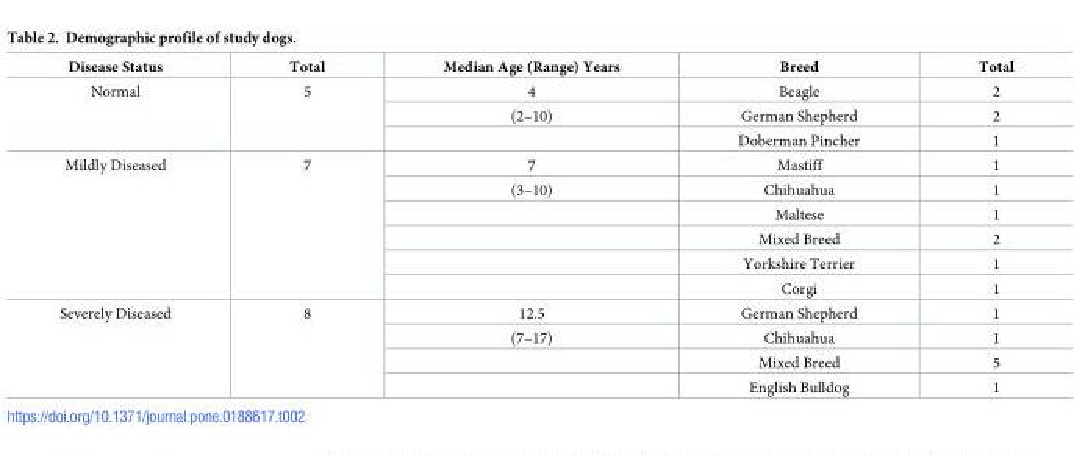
<table><thead><tr><td>Disease Status</td><td>Total</td><td>Median Age (Range) Years</td><td>Breed</td><td>Total</td></tr></thead><tbody><tr><td rowspan="3">Normal</td><td rowspan="3">5</td><td>4</td><td>Beagle</td><td>2</td></tr><tr><td>(2–10)</td><td>German Shepherd</td><td>2</td></tr><tr><td></td><td>Doberman Pincher</td><td>1</td></tr><tr><td rowspan="6">Mildly Diseased</td><td rowspan="6">7</td><td>7</td><td>Mastiff</td><td>1</td></tr><tr><td>(3–10)</td><td>Chihuahua</td><td>1</td></tr><tr><td></td><td>Maltese</td><td>1</td></tr><tr><td></td><td>Mixed Breed</td><td>2</td></tr><tr><td></td><td>Yorkshire Terrier</td><td>1</td></tr><tr><td></td><td>Corgi</td><td>1</td></tr><tr><td rowspan="4">Severely Diseased</td><td rowspan="4">8</td><td>12.5</td><td>German Shepherd</td><td>1</td></tr><tr><td>(7–17)</td><td>Chihuahua</td><td>1</td></tr><tr><td></td><td>Mixed Breed</td><td>5</td></tr><tr><td></td><td>English Bulldog</td><td>1</td></tr></tbody></table>